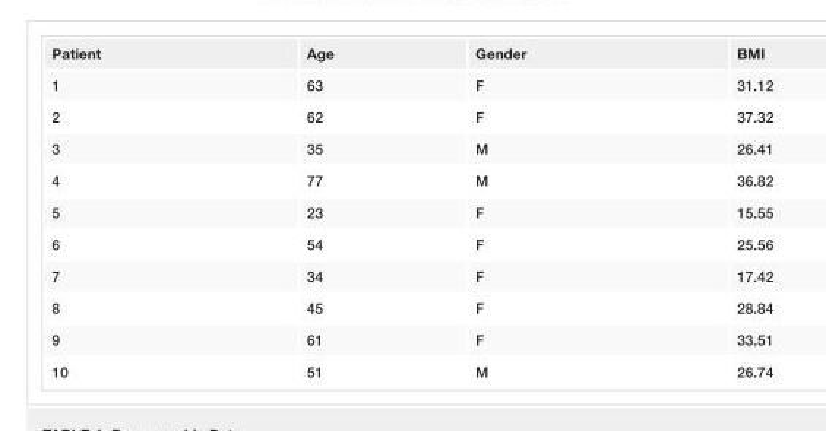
<table><tbody><tr><td>Patient</td><td>Age</td><td>Gender</td><td>BMI</td></tr><tr><td>1</td><td>63</td><td>F</td><td>31.12</td></tr><tr><td>2</td><td>62</td><td>F</td><td>37.32</td></tr><tr><td>3</td><td>35</td><td>M</td><td>26.41</td></tr><tr><td>4</td><td>77</td><td>M</td><td>36.82</td></tr><tr><td>5</td><td>23</td><td>F</td><td>15.55</td></tr><tr><td>6</td><td>54</td><td>F</td><td>25.56</td></tr><tr><td>7</td><td>34</td><td>F</td><td>17.42</td></tr><tr><td>8</td><td>45</td><td>F</td><td>28.84</td></tr><tr><td>9</td><td>61</td><td>F</td><td>33.51</td></tr><tr><td>10</td><td>51</td><td>M</td><td>26.74</td></tr></tbody></table>